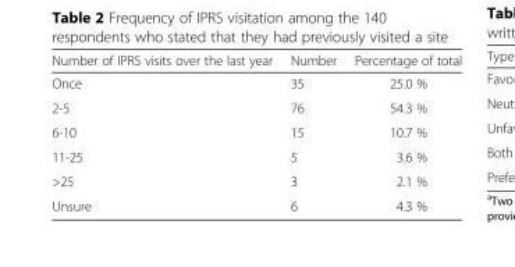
<table><thead><tr><td>Number of IPRS visits over the last year</td><td>Number</td><td>Percentage of total</td></tr></thead><tbody><tr><td>Once</td><td>35</td><td>25.0 %</td></tr><tr><td>2-5</td><td>76</td><td>54.3 %</td></tr><tr><td>6-10</td><td>15</td><td>10.7 %</td></tr><tr><td>11-25</td><td>5</td><td>3.6 %</td></tr><tr><td>&gt;25</td><td>3</td><td>2.1 %</td></tr><tr><td>Unsure</td><td>6</td><td>4.3 %</td></tr></tbody></table>